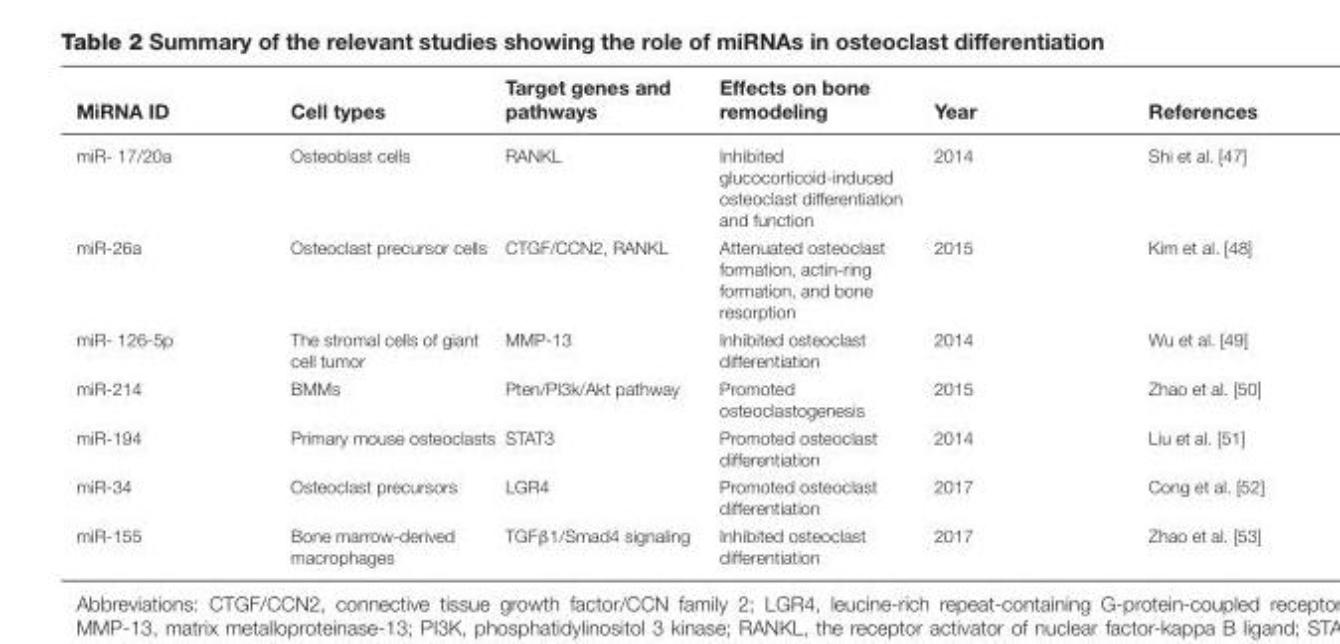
<table><thead><tr><td>MiRNA ID</td><td>Cell types</td><td>Target genes and pathways</td><td>Effects on bone remodeling</td><td>Year</td><td>References</td></tr></thead><tbody><tr><td>miR- 17/20a</td><td>Osteoblast cells</td><td>RANKL</td><td>Inhibited glucocorticoid-induced osteoclast differentiation and function</td><td>2014</td><td>Shi et al. [47]</td></tr><tr><td>miR-26a</td><td>Osteoclast precursor cells</td><td>CTGF/CCN2, RANKL</td><td>Attenuated osteoclast formation, actin-ring formation, and bone resorption</td><td>2015</td><td>Kim et al. [48]</td></tr><tr><td>miR- 126-5p</td><td>The stromal cells of giant cell tumor</td><td>MMP-13</td><td>Inhibited osteoclast differentiation</td><td>2014</td><td>Wu et al. [49]</td></tr><tr><td>miR-214</td><td>BMMs</td><td>Pten/PI3k/Akt pathway</td><td>Promoted osteoclastogenesis</td><td>2015</td><td>Zhao et al. [50]</td></tr><tr><td>miR-194</td><td>Primary mouse osteoclasts</td><td>STAT3</td><td>Promoted osteoclast differentiation</td><td>2014</td><td>Liu et al. [51]</td></tr><tr><td>miR-34</td><td>Osteoclast precursors</td><td>LGR4</td><td>Promoted osteoclast differentiation</td><td>2017</td><td>Cong et al. [52]</td></tr><tr><td>miR-155</td><td>Bone marrow-derived macrophages</td><td>TGFβ1/Smad4 signaling</td><td>Inhibited osteoclast differentiation</td><td>2017</td><td>Zhao et al. [53]</td></tr></tbody></table>